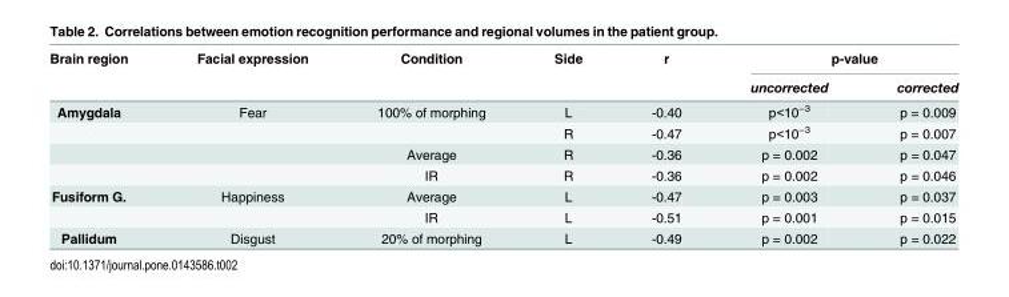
<table><thead><tr><td rowspan="2">Brain region</td><td rowspan="2">Facial expression</td><td rowspan="2">Condition</td><td rowspan="2">Side</td><td rowspan="2">r</td><td colspan="2">p-value</td></tr><tr><td>uncorrected</td><td>corrected</td></tr></thead><tbody><tr><td rowspan="4">Amygdala</td><td>Fear</td><td>100% of morphing</td><td>L</td><td>-0.40</td><td>p&lt;10<sup>−3</sup></td><td>p = 0.009</td></tr><tr><td></td><td></td><td>R</td><td>-0.47</td><td>p&lt;10<sup>−3</sup></td><td>p = 0.007</td></tr><tr><td></td><td>Average</td><td>R</td><td>-0.36</td><td>p = 0.002</td><td>p = 0.047</td></tr><tr><td></td><td>IR</td><td>R</td><td>-0.36</td><td>p = 0.002</td><td>p = 0.046</td></tr><tr><td rowspan="2">Fusiform G.</td><td>Happiness</td><td>Average</td><td>L</td><td>-0.47</td><td>p = 0.003</td><td>p = 0.037</td></tr><tr><td></td><td>IR</td><td>L</td><td>-0.51</td><td>p = 0.001</td><td>p = 0.015</td></tr><tr><td>Pallidum</td><td>Disgust</td><td>20% of morphing</td><td>L</td><td>-0.49</td><td>p = 0.002</td><td>p = 0.022</td></tr></tbody></table>